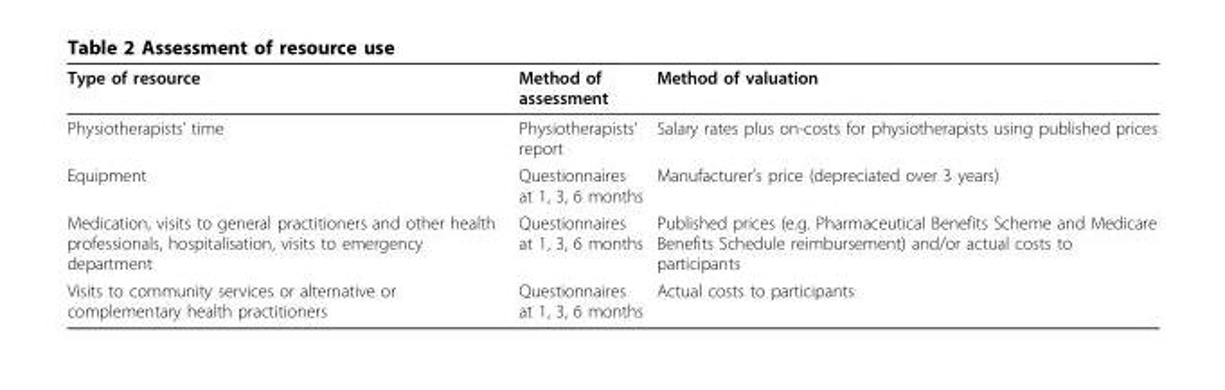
<table><thead><tr><td>Type of resource</td><td>Method of assessment</td><td>Method of valuation</td></tr></thead><tbody><tr><td>Physiotherapists’ time</td><td>Physiotherapists’ report</td><td>Salary rates plus on-costs for physiotherapists using published prices</td></tr><tr><td>Equipment</td><td>Questionnaires at 1, 3, 6 months</td><td>Manufacturer’s price (depreciated over 3 years)</td></tr><tr><td>Medication, visits to general practitioners and other health professionals, hospitalisation, visits to emergency department</td><td>Questionnaires at 1, 3, 6 months</td><td>Published prices (e.g. Pharmaceutical Benefits Scheme and Medicare Benefits Schedule reimbursement) and/or actual costs to participants</td></tr><tr><td>Visits to community services or alternative or complementary health practitioners</td><td>Questionnaires at 1, 3, 6 months</td><td>Actual costs to participants</td></tr></tbody></table>